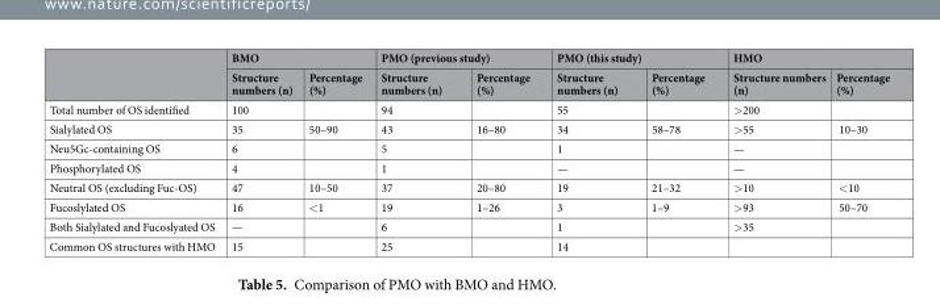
<table><thead><tr><td rowspan="2"></td><td colspan="2">BMO</td><td colspan="2">PMO (previous study)</td><td colspan="2">PMO (this study)</td><td colspan="2">HMO</td></tr><tr><td>Structure numbers (n)</td><td>Percentage (%)</td><td>Structure numbers (n)</td><td>Percentage (%)</td><td>Structure numbers (n)</td><td>Percentage (%)</td><td>Structure numbers (n)</td><td>Percentage (%)</td></tr></thead><tbody><tr><td>Total number of OS identified</td><td>100</td><td></td><td>94</td><td></td><td>55</td><td></td><td>&gt;200</td><td></td></tr><tr><td>Sialylated OS</td><td>35</td><td>50–90</td><td>43</td><td>16–80</td><td>34</td><td>58–78</td><td>&gt;55</td><td>10–30</td></tr><tr><td>Neu5Gc-containing OS</td><td>6</td><td></td><td>5</td><td></td><td>1</td><td></td><td>—</td><td></td></tr><tr><td>Phosphorylated OS</td><td>4</td><td></td><td>1</td><td></td><td>—</td><td></td><td>—</td><td></td></tr><tr><td>Neutral OS (excluding Fuc-OS)</td><td>47</td><td>10–50</td><td>37</td><td>20–80</td><td>19</td><td>21–32</td><td>&gt;10</td><td>&lt;10</td></tr><tr><td>Fucoslylated OS</td><td>16</td><td>&lt;1</td><td>19</td><td>1–26</td><td>3</td><td>1–9</td><td>&gt;93</td><td>50–70</td></tr><tr><td>Both Sialylated and Fucoslyated OS</td><td>—</td><td></td><td>6</td><td></td><td>1</td><td></td><td>&gt;35</td><td></td></tr><tr><td>Common OS structures with HMO</td><td>15</td><td></td><td>25</td><td></td><td>14</td><td></td><td></td><td></td></tr></tbody></table>